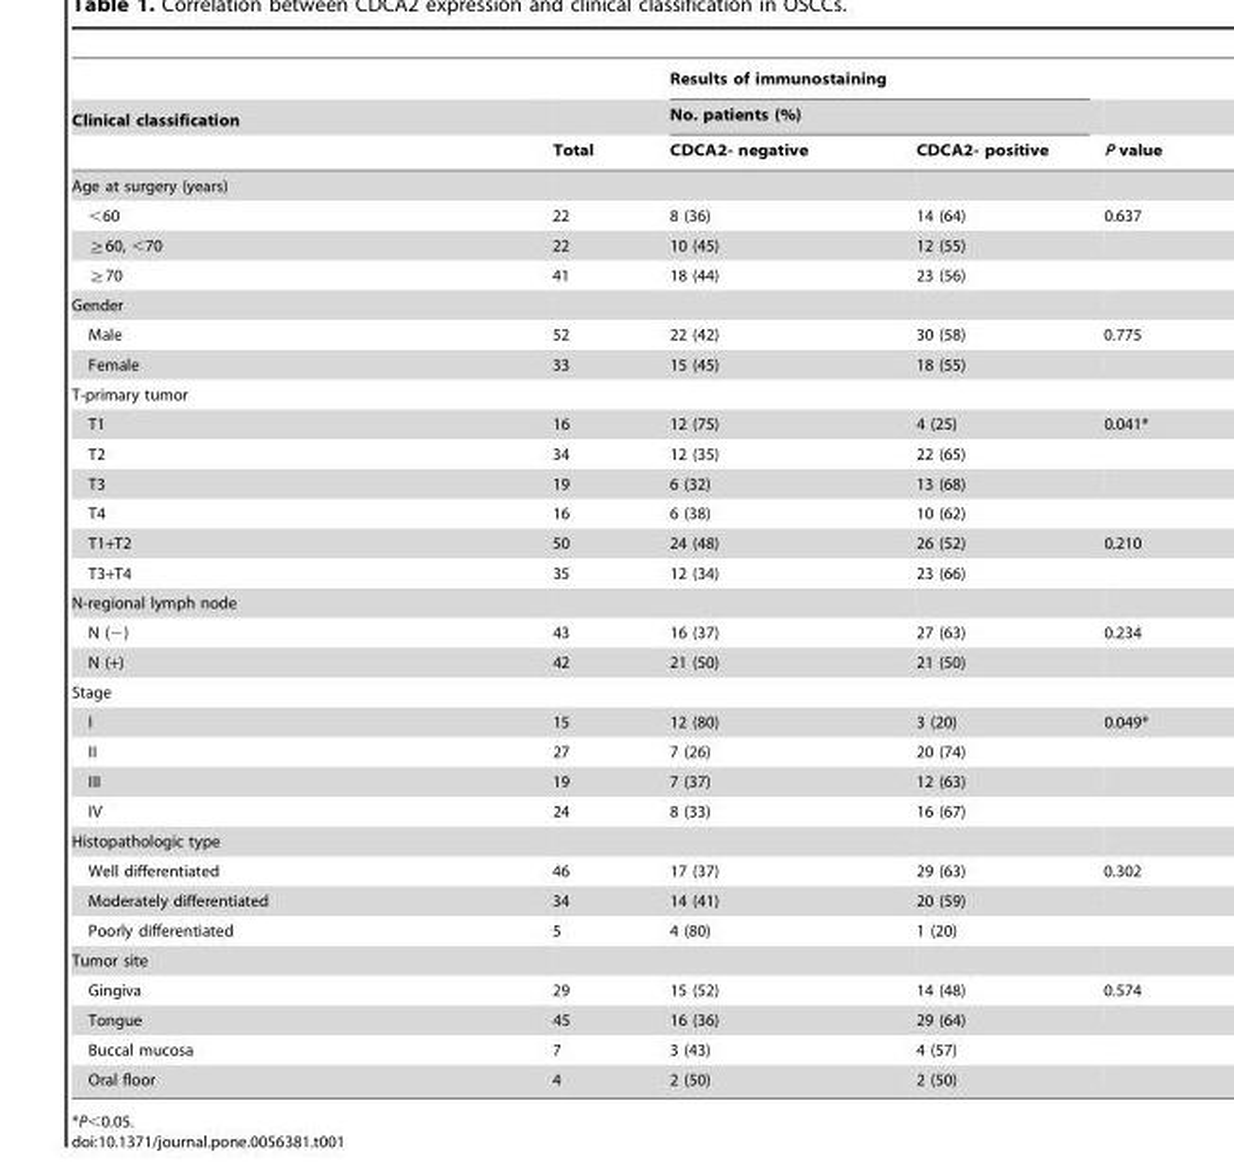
<table><thead><tr><td rowspan="3">Clinical classification</td><td rowspan="3">Total</td><td rowspan="2" colspan="2">Results of immunostaining No. patients (%)</td><td rowspan="3">P value</td></tr><tr></tr><tr><td>CDCA2- negative</td><td>CDCA2- positive</td></tr></thead><tbody><tr><td colspan="5">Age at surgery (years)</td></tr><tr><td>&lt;60</td><td>22</td><td>8 (36)</td><td>14 (64)</td><td>0.637</td></tr><tr><td>≧60, &lt;70</td><td>22</td><td>10 (45)</td><td>12 (55)</td><td></td></tr><tr><td>≧70</td><td>41</td><td>18 (44)</td><td>23 (56)</td><td></td></tr><tr><td colspan="5">Gender</td></tr><tr><td>Male</td><td>52</td><td>22 (42)</td><td>30 (58)</td><td>0.775</td></tr><tr><td>Female</td><td>33</td><td>15 (45)</td><td>18 (55)</td><td></td></tr><tr><td colspan="5">T-primary tumor</td></tr><tr><td>T1</td><td>16</td><td>12 (75)</td><td>4 (25)</td><td>0.041*</td></tr><tr><td>T2</td><td>34</td><td>12 (35)</td><td>22 (65)</td><td></td></tr><tr><td>T3</td><td>19</td><td>6 (32)</td><td>13 (68)</td><td></td></tr><tr><td>T4</td><td>16</td><td>6 (38)</td><td>10 (62)</td><td></td></tr><tr><td>T1+T2</td><td>50</td><td>24 (48)</td><td>26 (52)</td><td>0.210</td></tr><tr><td>T3+T4</td><td>35</td><td>12 (34)</td><td>23 (66)</td><td></td></tr><tr><td colspan="5">N-regional lymph node</td></tr><tr><td>N (−)</td><td>43</td><td>16 (37)</td><td>27 (63)</td><td>0.234</td></tr><tr><td>N (+)</td><td>42</td><td>21 (50)</td><td>21 (50)</td><td></td></tr><tr><td colspan="5">Stage</td></tr><tr><td>I</td><td>15</td><td>12 (80)</td><td>3 (20)</td><td>0.049*</td></tr><tr><td>II</td><td>27</td><td>7 (26)</td><td>20 (74)</td><td></td></tr><tr><td>III</td><td>19</td><td>7 (37)</td><td>12 (63)</td><td></td></tr><tr><td>IV</td><td>24</td><td>8 (33)</td><td>16 (67)</td><td></td></tr><tr><td colspan="5">Histopathologic type</td></tr><tr><td>Well differentiated</td><td>46</td><td>17 (37)</td><td>29 (63)</td><td>0.302</td></tr><tr><td>Moderately differentiated</td><td>34</td><td>14 (41)</td><td>20 (59)</td><td></td></tr><tr><td>Poorly differentiated</td><td>5</td><td>4 (80)</td><td>1 (20)</td><td></td></tr><tr><td colspan="5">Tumor site</td></tr><tr><td>Gingiva</td><td>29</td><td>15 (52)</td><td>14 (48)</td><td>0.574</td></tr><tr><td>Tongue</td><td>45</td><td>16 (36)</td><td>29 (64)</td><td></td></tr><tr><td>Buccal mucosa</td><td>7</td><td>3 (43)</td><td>4 (57)</td><td></td></tr><tr><td>Oral floor</td><td>4</td><td>2 (50)</td><td>2 (50)</td><td></td></tr></tbody></table>